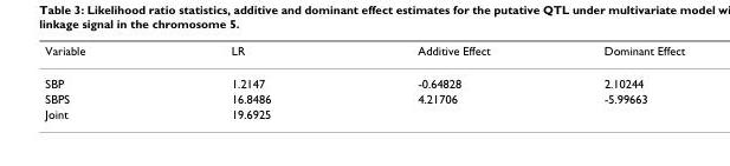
<table><thead><tr><td>Variable</td><td>LR</td><td>Additive Effect</td><td>Dominant Effect</td></tr></thead><tbody><tr><td>SBP</td><td>1.2147</td><td>-0.64828</td><td>2.10244</td></tr><tr><td>SBPS</td><td>16.8486</td><td>4.21706</td><td>-5.99663</td></tr><tr><td>Joint</td><td>19.6925</td><td></td><td></td></tr></tbody></table>